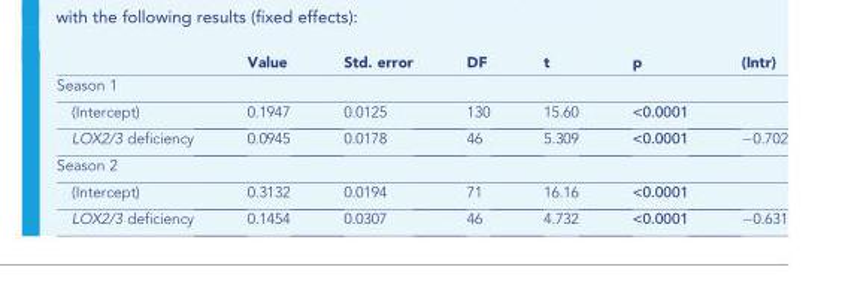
<table><thead><tr><td></td><td>Value</td><td>Std. error</td><td>DF</td><td>t</td><td>p</td><td>(Intr)</td></tr></thead><tbody><tr><td colspan="7">Season 1</td></tr><tr><td>(Intercept)</td><td>0.1947</td><td>0.0125</td><td>130</td><td>15.60</td><td>&lt;0.0001</td><td></td></tr><tr><td>LOX2/3 deficiency</td><td>0.0945</td><td>0.0178</td><td>46</td><td>5.309</td><td>&lt;0.0001</td><td>−0.702</td></tr><tr><td colspan="7">Season 2</td></tr><tr><td>(Intercept)</td><td>0.3132</td><td>0.0194</td><td>71</td><td>16.16</td><td>&lt;0.0001</td><td></td></tr><tr><td>LOX2/3 deficiency</td><td>0.1454</td><td>0.0307</td><td>46</td><td>4.732</td><td>&lt;0.0001</td><td>−0.631</td></tr></tbody></table>